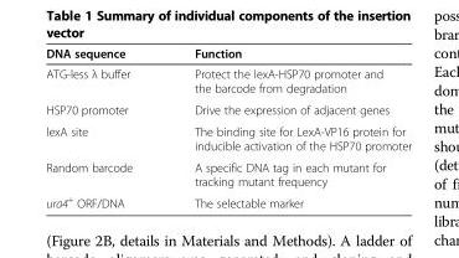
<table><thead><tr><td>DNA sequence</td><td>Function</td></tr></thead><tbody><tr><td>ATG-less λ buffer</td><td>Protect the lexA-HSP70 promoter and the barcode from degradation</td></tr><tr><td>HSP70 promoter</td><td>Drive the expression of adjacent genes</td></tr><tr><td>lexA site</td><td>The binding site for LexA-VP16 protein for inducible activation of the HSP70 promoter</td></tr><tr><td>Random barcode</td><td>A specific DNA tag in each mutant for tracking mutant frequency</td></tr><tr><td>ura4<sup>+</sup> ORF/DNA</td><td>The selectable marker</td></tr></tbody></table>